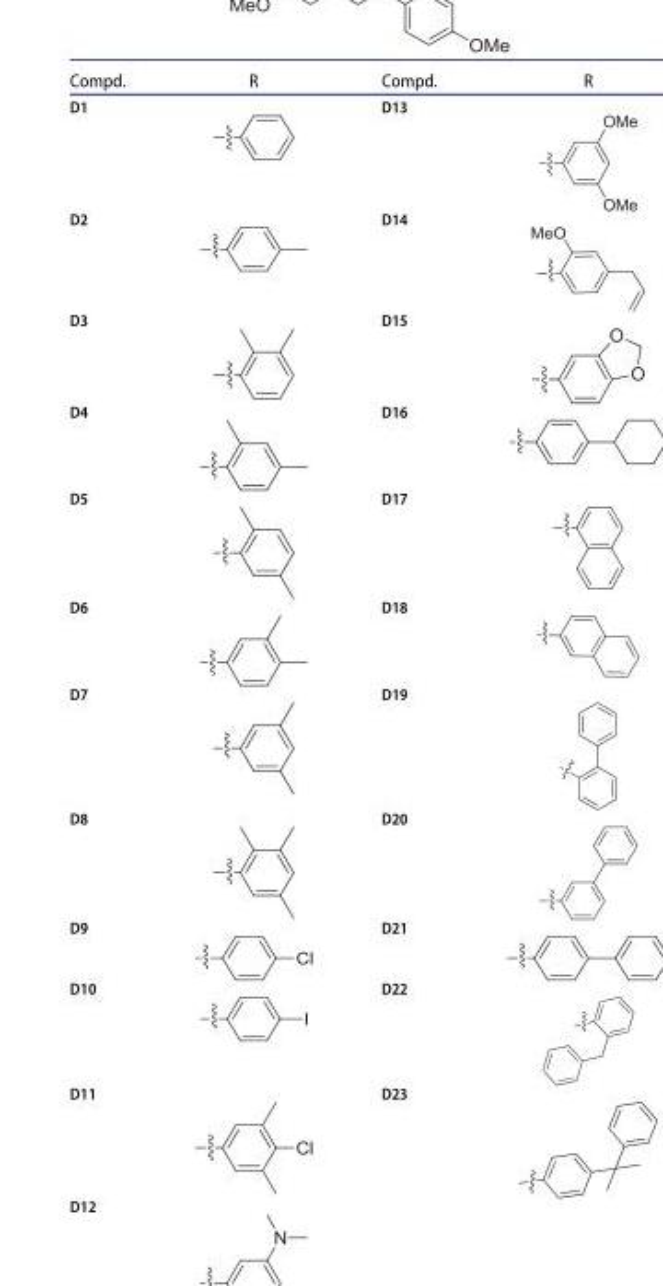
<table><thead><tr><td>Compd.</td><td>R</td><td>Compd.</td><td>R</td></tr></thead><tbody><tr><td>D1</td><td></td><td>D13</td><td></td></tr><tr><td>D2</td><td></td><td>D14</td><td></td></tr><tr><td>D3</td><td></td><td>D15</td><td></td></tr><tr><td>D4</td><td></td><td>D16</td><td></td></tr><tr><td>D5</td><td></td><td>D17</td><td></td></tr><tr><td>D6</td><td></td><td>D18</td><td></td></tr><tr><td>D7</td><td></td><td>D19</td><td></td></tr><tr><td>D8</td><td></td><td>D20</td><td></td></tr><tr><td>D9</td><td></td><td>D21</td><td></td></tr><tr><td>D10</td><td></td><td>D22</td><td></td></tr><tr><td>D11</td><td></td><td>D23</td><td></td></tr><tr><td>D12</td><td></td><td></td><td></td></tr></tbody></table>